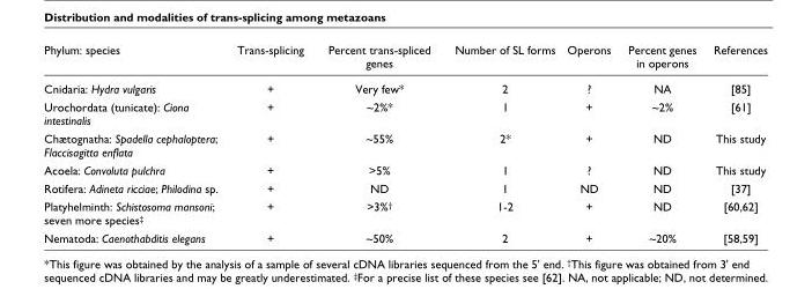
<table><thead><tr><td>Phylum: species</td><td>Trans-splicing</td><td>Percent trans-spliced genes</td><td>Number of SL forms</td><td>Operons</td><td>Percent genes in operons</td><td>References</td></tr></thead><tbody><tr><td>Cnidaria: Hydra vulgaris</td><td>+</td><td>Very few*</td><td>2</td><td>?</td><td>NA</td><td>[85]</td></tr><tr><td>Urochordata (tunicate): Ciona intestinalis</td><td>+</td><td>~2%*</td><td>1</td><td>+</td><td>~2%</td><td>[61]</td></tr><tr><td>Chætognatha: Spadella cephaloptera; Flaccisagitta enflata</td><td>+</td><td>~55%</td><td>2*</td><td>+</td><td>ND</td><td>This study</td></tr><tr><td>Acoela: Convoluta pulchra</td><td>+</td><td>&gt;5%</td><td>1</td><td>?</td><td>ND</td><td>This study</td></tr><tr><td>Rotifera: Adineta ricciae; Philodina sp.</td><td>+</td><td>ND</td><td>1</td><td>ND</td><td>ND</td><td>[37]</td></tr><tr><td>Platyhelminth: Schistosoma mansoni; seven more species<sup>‡</sup></td><td>+</td><td>&gt;3%<sup>†</sup></td><td>1-2</td><td>+</td><td>ND</td><td>[60,62]</td></tr><tr><td>Nematoda: Caenothabditis elegans</td><td>+</td><td>~50%</td><td>2</td><td>+</td><td>~20%</td><td>[58,59]</td></tr></tbody></table>